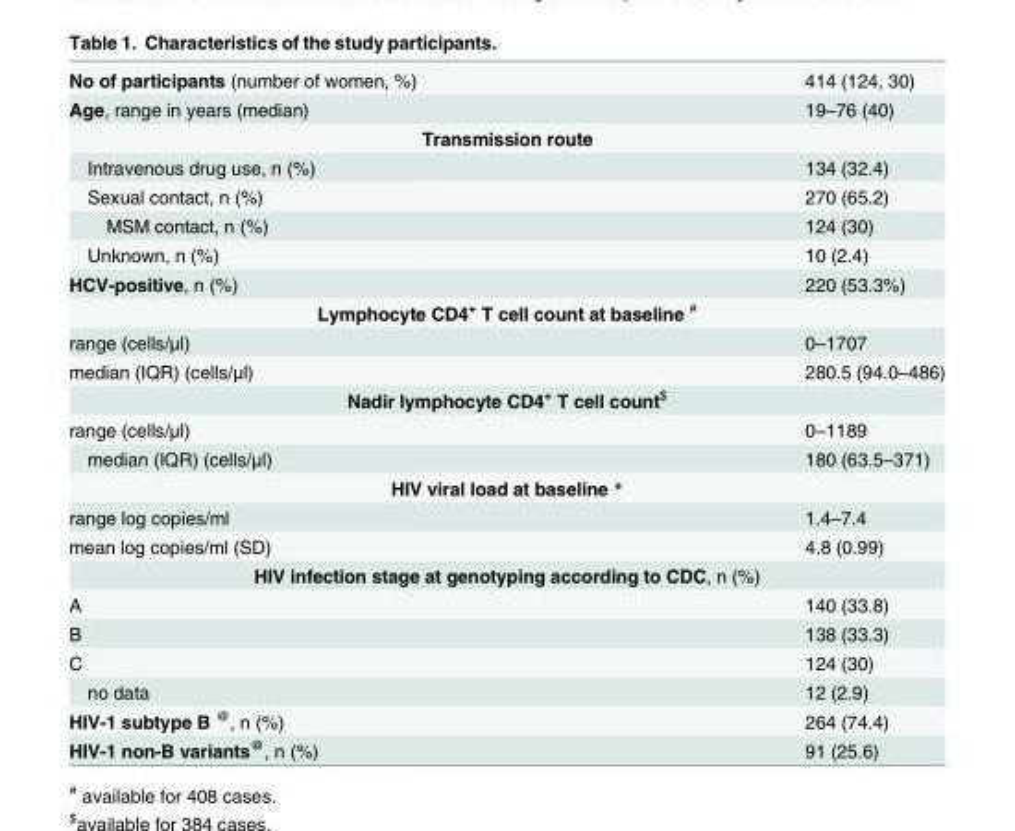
<table><tbody><tr><td>No of participants (number of women, %)</td><td>414 (124, 30)</td></tr><tr><td>Age, range in years (median)</td><td>19–76 (40)</td></tr><tr><td colspan="2">Transmission route</td></tr><tr><td>Intravenous drug use, n (%)</td><td>134 (32.4)</td></tr><tr><td>Sexual contact, n (%)</td><td>270 (65.2)</td></tr><tr><td>MSM contact, n (%)</td><td>124 (30)</td></tr><tr><td>Unknown, n (%)</td><td>10 (2.4)</td></tr><tr><td>HCV-positive, n (%)</td><td>220 (53.3%)</td></tr><tr><td colspan="2">Lymphocyte CD4<sup>+</sup> T cell count at baseline <sup>#</sup></td></tr><tr><td>range (cells/μl)</td><td>0–1707</td></tr><tr><td>median (IQR) (cells/μl)</td><td>280.5 (94.0–486)</td></tr><tr><td colspan="2">Nadir lymphocyte CD4<sup>+</sup> T cell count<sup>$</sup></td></tr><tr><td>range (cells/μl)</td><td>0–1189</td></tr><tr><td>median (IQR) (cells/μl)</td><td>180 (63.5–371)</td></tr><tr><td colspan="2">HIV viral load at baseline *</td></tr><tr><td>range log copies/ml</td><td>1.4–7.4</td></tr><tr><td>mean log copies/ml (SD)</td><td>4.8 (0.99)</td></tr><tr><td colspan="2">HIV infection stage at genotyping according to CDC, n (%)</td></tr><tr><td>A</td><td>140 (33.8)</td></tr><tr><td>B</td><td>138 (33.3)</td></tr><tr><td>C</td><td>124 (30)</td></tr><tr><td>no data</td><td>12 (2.9)</td></tr><tr><td>HIV-1 subtype B <sup>@</sup>, n (%)</td><td>264 (74.4)</td></tr><tr><td>HIV-1 non-B variants<sup>@</sup>, n (%)</td><td>91 (25.6)</td></tr></tbody></table>